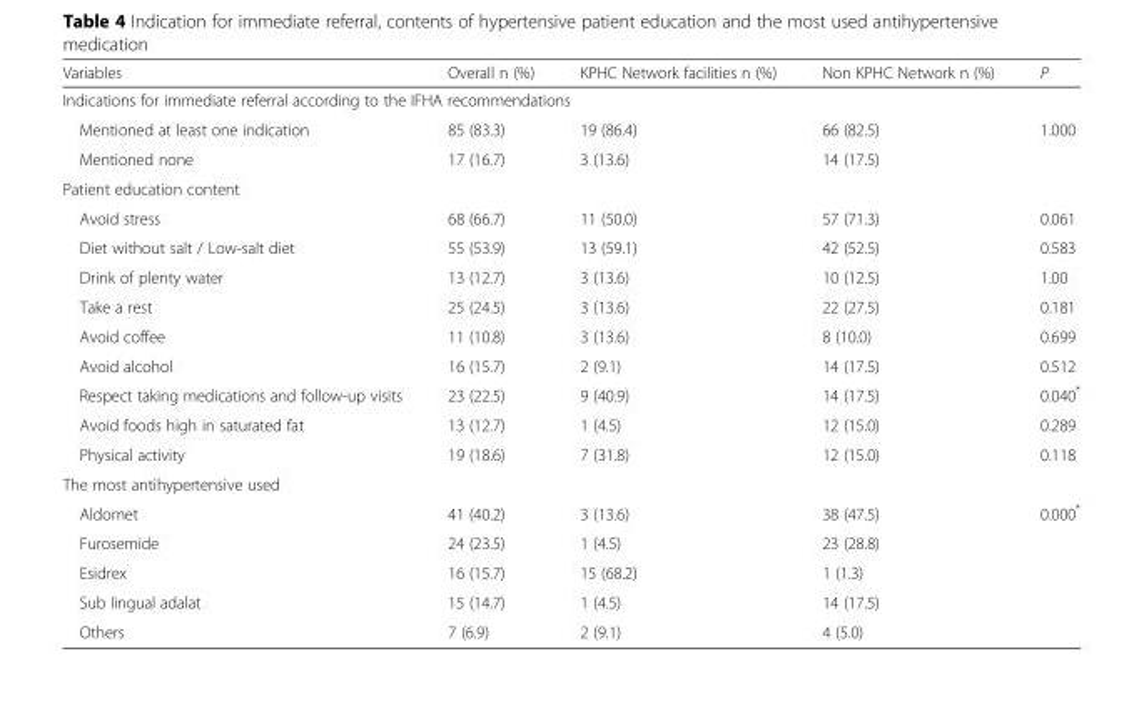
<table><thead><tr><td>Variables</td><td>Overall n (%)</td><td>KPHC Network facilities n (%)</td><td>Non KPHC Network n (%)</td><td>P</td></tr></thead><tbody><tr><td colspan="5">Indications for immediate referral according to the IFHA recommendations</td></tr><tr><td>Mentioned at least one indication</td><td>85 (83.3)</td><td>19 (86.4)</td><td>66 (82.5)</td><td>1.000</td></tr><tr><td>Mentioned none</td><td>17 (16.7)</td><td>3 (13.6)</td><td>14 (17.5)</td><td></td></tr><tr><td colspan="5">Patient education content</td></tr><tr><td>Avoid stress</td><td>68 (66.7)</td><td>11 (50.0)</td><td>57 (71.3)</td><td>0.061</td></tr><tr><td>Diet without salt / Low-salt diet</td><td>55 (53.9)</td><td>13 (59.1)</td><td>42 (52.5)</td><td>0.583</td></tr><tr><td>Drink of plenty water</td><td>13 (12.7)</td><td>3 (13.6)</td><td>10 (12.5)</td><td>1.00</td></tr><tr><td>Take a rest</td><td>25 (24.5)</td><td>3 (13.6)</td><td>22 (27.5)</td><td>0.181</td></tr><tr><td>Avoid coffee</td><td>11 (10.8)</td><td>3 (13.6)</td><td>8 (10.0)</td><td>0.699</td></tr><tr><td>Avoid alcohol</td><td>16 (15.7)</td><td>2 (9.1)</td><td>14 (17.5)</td><td>0.512</td></tr><tr><td>Respect taking medications and follow-up visits</td><td>23 (22.5)</td><td>9 (40.9)</td><td>14 (17.5)</td><td>0.040*</td></tr><tr><td>Avoid foods high in saturated fat</td><td>13 (12.7)</td><td>1 (4.5)</td><td>12 (15.0)</td><td>0.289</td></tr><tr><td>Physical activity</td><td>19 (18.6)</td><td>7 (31.8)</td><td>12 (15.0)</td><td>0.118</td></tr><tr><td colspan="5">The most antihypertensive used</td></tr><tr><td>Aldomet</td><td>41 (40.2)</td><td>3 (13.6)</td><td>38 (47.5)</td><td>0.000*</td></tr><tr><td>Furosemide</td><td>24 (23.5)</td><td>1 (4.5)</td><td>23 (28.8)</td><td></td></tr><tr><td>Esidrex</td><td>16 (15.7)</td><td>15 (68.2)</td><td>1 (1.3)</td><td></td></tr><tr><td>Sub lingual adalat</td><td>15 (14.7)</td><td>1 (4.5)</td><td>14 (17.5)</td><td></td></tr><tr><td>Others</td><td>7 (6.9)</td><td>2 (9.1)</td><td>4 (5.0)</td><td></td></tr></tbody></table>